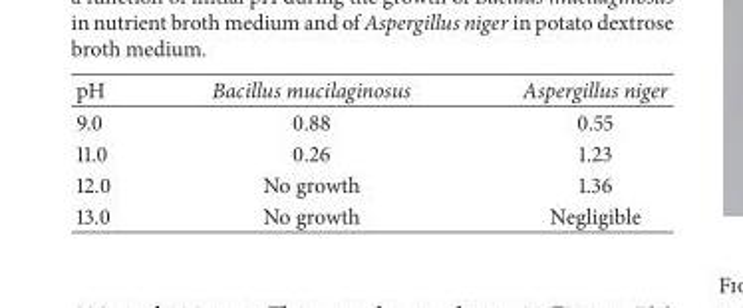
<table><thead><tr><td>pH</td><td>Bacillus mucilaginosus</td><td>Aspergillus niger</td></tr></thead><tbody><tr><td>9.0</td><td>0.88</td><td>0.55</td></tr><tr><td>11.0</td><td>0.26</td><td>1.23</td></tr><tr><td>12.0</td><td>No growth</td><td>1.36</td></tr><tr><td>13.0</td><td>No growth</td><td>Negligible</td></tr></tbody></table>